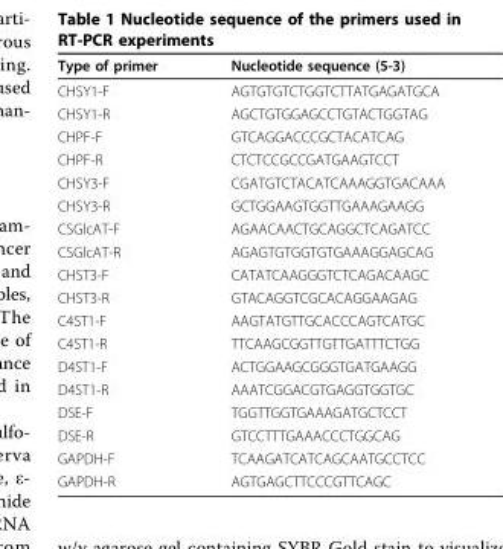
<table><thead><tr><td>Type of primer</td><td>Nucleotide sequence (5-3)</td></tr></thead><tbody><tr><td>CHSY1-F</td><td>AGTGTGTCTGGTCTTATGAGATGCA</td></tr><tr><td>CHSY1-R</td><td>AGCTGTGGAGCCTGTACTGGTAG</td></tr><tr><td>CHPF-F</td><td>GTCAGGACCCGCTACATCAG</td></tr><tr><td>CHPF-R</td><td>CTCTCCGCCGATGAAGTCCT</td></tr><tr><td>CHSY3-F</td><td>CGATGTCTACATCAAAGGTGACAAA</td></tr><tr><td>CHSY3-R</td><td>GCTGGAAGTGGTTGAAAGAAGG</td></tr><tr><td>CSGlcAT-F</td><td>AGAACAACTGCAGGCTCAGATCC</td></tr><tr><td>CSGlcAT-R</td><td>AGAGTGTGGTGTGAAAGGAGCAG</td></tr><tr><td>CHST3-F</td><td>CATATCAAGGGTCTCAGACAAGC</td></tr><tr><td>CHST3-R</td><td>GTACAGGTCGCACAGGAAGAG</td></tr><tr><td>C4ST1-F</td><td>AAGTATGTTGCACCCAGTCATGC</td></tr><tr><td>C4ST1-R</td><td>TTCAAGCGGTTGTTGATTTCTGG</td></tr><tr><td>D4ST1-F</td><td>ACTGGAAGCGGGTGATGAAGG</td></tr><tr><td>D4ST1-R</td><td>AAATCGGACGTGAGGTGGTGC</td></tr><tr><td>DSE-F</td><td>TGGTTGGTGAAAGATGCTCCT</td></tr><tr><td>DSE-R</td><td>GTCCTTTGAAACCCTGGCAG</td></tr><tr><td>GAPDH-F</td><td>TCAAGATCATCAGCAATGCCTCC</td></tr><tr><td>GAPDH-R</td><td>AGTGAGCTTCCCGTTCAGC</td></tr></tbody></table>